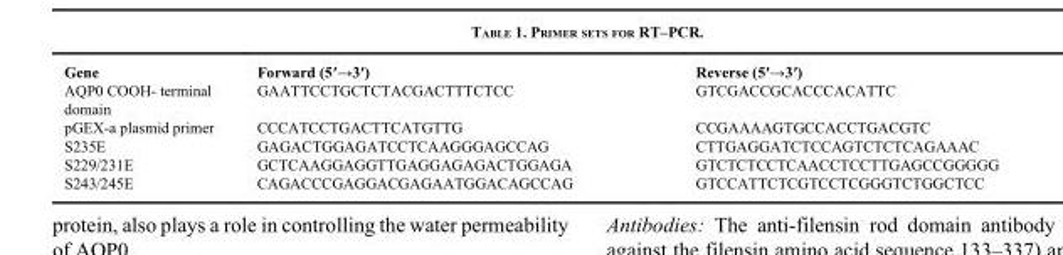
<table><thead><tr><td>Gene</td><td>Forward (5′→3′)</td><td>Reverse (5′→3′)</td></tr></thead><tbody><tr><td>AQP0 COOH- terminal domain</td><td>GAATTCCTGCTCTACGACTTTCTCC</td><td>GTCGACCGCACCCACATTC</td></tr><tr><td>pGEX-a plasmid primer</td><td>CCCATCCTGACTTCATGTTG</td><td>CCGAAAAGTGCCACCTGACGTC</td></tr><tr><td>S235E</td><td>GAGACTGGAGATCCTCAAGGGAGCCAG</td><td>CTTGAGGATCTCCAGTCTCTCAGAAAC</td></tr><tr><td>S229/231E</td><td>GCTCAAGGAGGTTGAGGAGAGACTGGAGA</td><td>GTCTCTCCTCAACCTCCTTGAGCCGGGGG</td></tr><tr><td>S243/245E</td><td>CAGACCCGAGGACGAGAATGGACAGCCAG</td><td>GTCCATTCTCGTCCTCGGGTCTGGCTCC</td></tr></tbody></table>